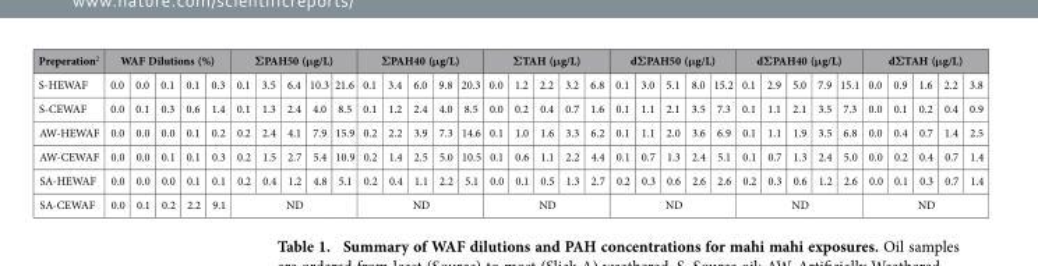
<table><thead><tr><td rowspan="2">Preperation<sup>2</sup> S-HEWAF</td><td colspan="5">WAF Dilutions (%)</td><td colspan="5">ΣPAH50 (μg/L)</td><td colspan="5">ΣPAH40 (μg/L)</td><td colspan="5">ΣTAH (μg/L)</td><td colspan="5">dΣPAH50 (μg/L)</td><td colspan="5">dΣPAH40 (μg/L)</td><td colspan="5">dΣTAH (μg/L)</td></tr><tr><td>0.0</td><td>0.0</td><td>0.1</td><td>0.1</td><td>0.3</td><td>0.1</td><td>3.5</td><td>6.4</td><td>10.3</td><td>21.6</td><td>0.1</td><td>3.4</td><td>6.0</td><td>9.8</td><td>20.3</td><td>0.0</td><td>1.2</td><td>2.2</td><td>3.2</td><td>6.8</td><td>0.1</td><td>3.0</td><td>5.1</td><td>8.0</td><td>15.2</td><td>0.1</td><td>2.9</td><td>5.0</td><td>7.9</td><td>15.1</td><td>0.0</td><td>0.9</td><td>1.6</td><td>2.2</td><td>3.8</td></tr></thead><tbody><tr><td>S-CEWAF</td><td>0.0</td><td>0.1</td><td>0.3</td><td>0.6</td><td>1.4</td><td>0.1</td><td>1.3</td><td>2.4</td><td>4.0</td><td>8.5</td><td>0.1</td><td>1.2</td><td>2.4</td><td>4.0</td><td>8.5</td><td>0.0</td><td>0.2</td><td>0.4</td><td>0.7</td><td>1.6</td><td>0.1</td><td>1.1</td><td>2.1</td><td>3.5</td><td>7.3</td><td>0.1</td><td>1.1</td><td>2.1</td><td>3.5</td><td>7.3</td><td>0.0</td><td>0.1</td><td>0.2</td><td>0.4</td><td>0.9</td></tr><tr><td>AW-HEWAF</td><td>0.0</td><td>0.0</td><td>0.0</td><td>0.1</td><td>0.2</td><td>0.2</td><td>2.4</td><td>4.1</td><td>7.9</td><td>15.9</td><td>0.2</td><td>2.2</td><td>3.9</td><td>7.3</td><td>14.6</td><td>0.1</td><td>1.0</td><td>1.6</td><td>3.3</td><td>6.2</td><td>0.1</td><td>1.1</td><td>2.0</td><td>3.6</td><td>6.9</td><td>0.1</td><td>1.1</td><td>1.9</td><td>3.5</td><td>6.8</td><td>0.0</td><td>0.4</td><td>0.7</td><td>1.4</td><td>2.5</td></tr><tr><td>AW-CEWAF</td><td>0.0</td><td>0.0</td><td>0.1</td><td>0.1</td><td>0.3</td><td>0.2</td><td>1.5</td><td>2.7</td><td>5.4</td><td>10.9</td><td>0.2</td><td>1.4</td><td>2.5</td><td>5.0</td><td>10.5</td><td>0.1</td><td>0.6</td><td>1.1</td><td>2.2</td><td>4.4</td><td>0.1</td><td>0.7</td><td>1.3</td><td>2.4</td><td>5.1</td><td>0.1</td><td>0.7</td><td>1.3</td><td>2.4</td><td>5.0</td><td>0.0</td><td>0.2</td><td>0.4</td><td>0.7</td><td>1.4</td></tr><tr><td>SA-HEWAF</td><td>0.0</td><td>0.0</td><td>0.0</td><td>0.1</td><td>0.1</td><td>0.2</td><td>0.4</td><td>1.2</td><td>4.8</td><td>5.1</td><td>0.2</td><td>0.4</td><td>1.1</td><td>2.2</td><td>5.1</td><td>0.0</td><td>0.1</td><td>0.5</td><td>1.3</td><td>2.7</td><td>0.2</td><td>0.3</td><td>0.6</td><td>2.6</td><td>2.6</td><td>0.2</td><td>0.3</td><td>0.6</td><td>1.2</td><td>2.6</td><td>0.0</td><td>0.1</td><td>0.3</td><td>0.7</td><td>1.4</td></tr><tr><td>SA-CEWAF</td><td>0.0</td><td>0.1</td><td>0.2</td><td>2.2</td><td>9.1</td><td colspan="5">ND</td><td colspan="5">ND</td><td colspan="5">ND</td><td colspan="5">ND</td><td colspan="5">ND</td><td colspan="5">ND</td></tr></tbody></table>